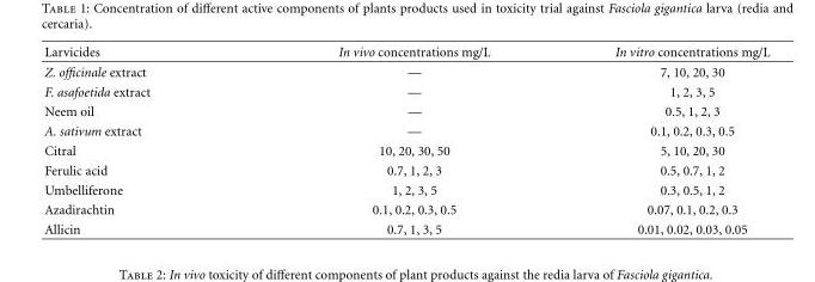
<table><thead><tr><td>Larvicides</td><td>In vivo concentrations mg/L</td><td>In vitro concentrations mg/L</td></tr></thead><tbody><tr><td>Z. officinale extract</td><td>—</td><td>7, 10, 20, 30</td></tr><tr><td>F. asafoetida extract</td><td>—</td><td>1, 2, 3, 5</td></tr><tr><td>Neem oil</td><td>—</td><td>0.5, 1, 2, 3</td></tr><tr><td>A. sativum extract</td><td>—</td><td>0.1, 0.2, 0.3, 0.5</td></tr><tr><td>Citral</td><td>10, 20, 30, 50</td><td>5, 10, 20, 30</td></tr><tr><td>Ferulic acid</td><td>0.7, 1, 2, 3</td><td>0.5, 0.7, 1, 2</td></tr><tr><td>Umbelliferone</td><td>1, 2, 3, 5</td><td>0.3, 0.5, 1, 2</td></tr><tr><td>Azadirachtin</td><td>0.1, 0.2, 0.3, 0.5</td><td>0.07, 0.1, 0.2, 0.3</td></tr><tr><td>Allicin</td><td>0.7, 1, 3, 5</td><td>0.01, 0.02, 0.03, 0.05</td></tr></tbody></table>